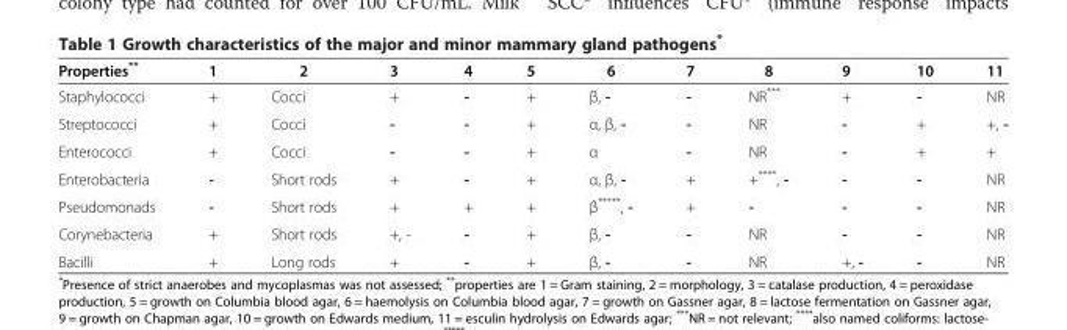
<table><thead><tr><td>Properties**</td><td>1</td><td>2</td><td>3</td><td>4</td><td>5</td><td>6</td><td>7</td><td>8</td><td>9</td><td>10</td><td>11</td></tr></thead><tbody><tr><td>Staphylococci</td><td>+</td><td>Cocci</td><td>+</td><td>-</td><td>+</td><td>β, -</td><td>-</td><td>NR***</td><td>+</td><td>-</td><td>NR</td></tr><tr><td>Streptococci</td><td>+</td><td>Cocci</td><td>-</td><td>-</td><td>+</td><td>α, β, -</td><td>-</td><td>NR</td><td>-</td><td>+</td><td>+, -</td></tr><tr><td>Enterococci</td><td>+</td><td>Cocci</td><td>-</td><td>-</td><td>+</td><td>α</td><td>-</td><td>NR</td><td>-</td><td>+</td><td>+</td></tr><tr><td>Enterobacteria</td><td>-</td><td>Short rods</td><td>+</td><td>-</td><td>+</td><td>α, β, -</td><td>+</td><td>+****, -</td><td>-</td><td>-</td><td>NR</td></tr><tr><td>Pseudomonads</td><td>-</td><td>Short rods</td><td>+</td><td>+</td><td>+</td><td>β*****, -</td><td>+</td><td>-</td><td>-</td><td>-</td><td>NR</td></tr><tr><td>Corynebacteria</td><td>+</td><td>Short rods</td><td>+, -</td><td>-</td><td>+</td><td>β, -</td><td>-</td><td>NR</td><td>-</td><td>-</td><td>NR</td></tr><tr><td>Bacilli</td><td>+</td><td>Long rods</td><td>+</td><td>-</td><td>+</td><td>β, -</td><td>-</td><td>NR</td><td>+, -</td><td>-</td><td>NR</td></tr></tbody></table>